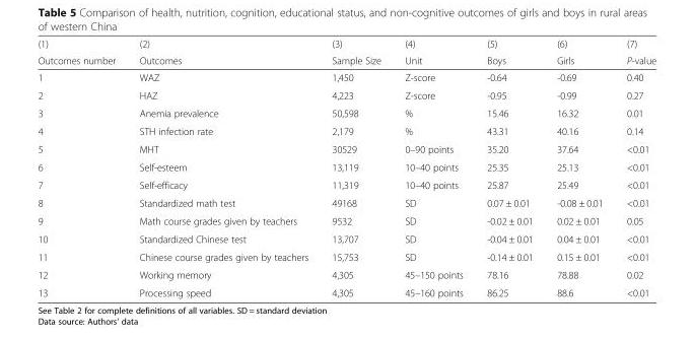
<table><thead><tr><td rowspan="2">(1) Outcomes number</td><td rowspan="2">(2) Outcomes</td><td rowspan="2">(3) Sample Size</td><td rowspan="2">(4) Unit</td><td rowspan="2">(5) Boys</td><td rowspan="2">(6) Girls</td><td rowspan="2">(7) P-value</td></tr><tr></tr></thead><tbody><tr><td>1</td><td>WAZ</td><td>1,450</td><td>Z-score</td><td>-0.64</td><td>-0.69</td><td>0.40</td></tr><tr><td>2</td><td>HAZ</td><td>4,223</td><td>Z-score</td><td>-0.95</td><td>-0.99</td><td>0.27</td></tr><tr><td>3</td><td>Anemia prevalence</td><td>50,598</td><td>%</td><td>15.46</td><td>16.32</td><td>0.01</td></tr><tr><td>4</td><td>STH infection rate</td><td>2,179</td><td>%</td><td>43.31</td><td>40.16</td><td>0.14</td></tr><tr><td>5</td><td>MHT</td><td>30529</td><td>0–90 points</td><td>35.20</td><td>37.64</td><td>&lt;0.01</td></tr><tr><td>6</td><td>Self-esteem</td><td>13,119</td><td>10–40 points</td><td>25.35</td><td>25.13</td><td>&lt;0.01</td></tr><tr><td>7</td><td>Self-efficacy</td><td>11,319</td><td>10–40 points</td><td>25.87</td><td>25.49</td><td>&lt;0.01</td></tr><tr><td>8</td><td>Standardized math test</td><td>49168</td><td>SD</td><td>0.07 ± 0.01</td><td>-0.08 ± 0.01</td><td>&lt;0.01</td></tr><tr><td>9</td><td>Math course grades given by teachers</td><td>9532</td><td>SD</td><td>-0.02 ± 0.01</td><td>0.02 ± 0.01</td><td>0.05</td></tr><tr><td>10</td><td>Standardized Chinese test</td><td>13,707</td><td>SD</td><td>-0.04 ± 0.01</td><td>0.04 ± 0.01</td><td>&lt;0.01</td></tr><tr><td>11</td><td>Chinese course grades given by teachers</td><td>15,753</td><td>SD</td><td>-0.14 ± 0.01</td><td>0.15 ± 0.01</td><td>&lt;0.01</td></tr><tr><td>12</td><td>Working memory</td><td>4,305</td><td>45–150 points</td><td>78.16</td><td>78.88</td><td>0.02</td></tr><tr><td>13</td><td>Processing speed</td><td>4,305</td><td>45–160 points</td><td>86.25</td><td>88.6</td><td>&lt;0.01</td></tr></tbody></table>